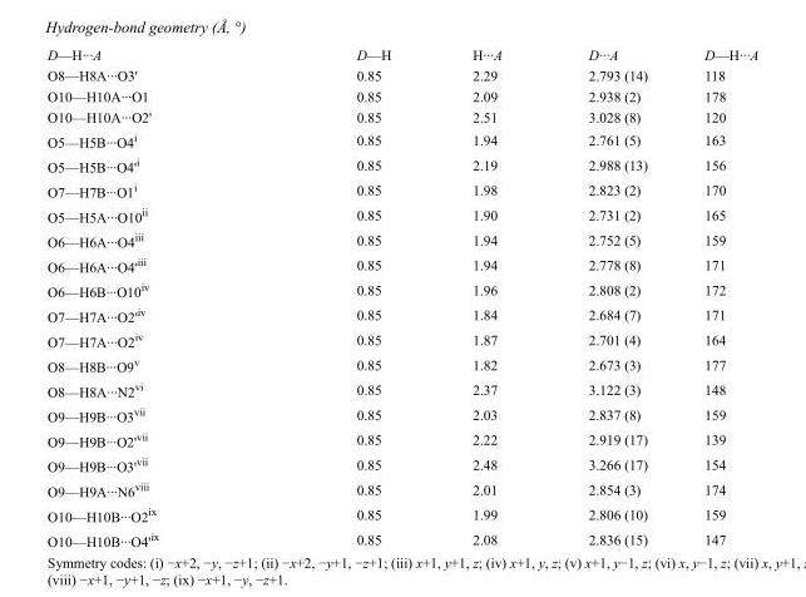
<table><tbody><tr><td>D—H···A</td><td>D—H</td><td>H···A</td><td>D···A</td><td>D—H···A</td></tr><tr><td>O8—H8A···O3&#x27;</td><td>0.85</td><td>2.29</td><td>2.793 (14)</td><td>118</td></tr><tr><td>O10—H10A···O1</td><td>0.85</td><td>2.09</td><td>2.938 (2)</td><td>178</td></tr><tr><td>O10—H10A···O2&#x27;</td><td>0.85</td><td>2.51</td><td>3.028 (8)</td><td>120</td></tr><tr><td>O5—H5B···O4<sup>i</sup></td><td>0.85</td><td>1.94</td><td>2.761 (5)</td><td>163</td></tr><tr><td>O5—H5B···O4&#x27;<sup>i</sup></td><td>0.85</td><td>2.19</td><td>2.988 (13)</td><td>156</td></tr><tr><td>O7—H7B···O1<sup>i</sup></td><td>0.85</td><td>1.98</td><td>2.823 (2)</td><td>170</td></tr><tr><td>O5—H5A···O10<sup>ii</sup></td><td>0.85</td><td>1.90</td><td>2.731 (2)</td><td>165</td></tr><tr><td>O6—H6A···O4<sup>iii</sup></td><td>0.85</td><td>1.94</td><td>2.752 (5)</td><td>159</td></tr><tr><td>O6—H6A···O4&#x27;<sup>iii</sup></td><td>0.85</td><td>1.94</td><td>2.778 (8)</td><td>171</td></tr><tr><td>O6—H6B···O10<sup>iv</sup></td><td>0.85</td><td>1.96</td><td>2.808 (2)</td><td>172</td></tr><tr><td>O7—H7A···O2&#x27;<sup>iv</sup></td><td>0.85</td><td>1.84</td><td>2.684 (7)</td><td>171</td></tr><tr><td>O7—H7A···O2<sup>iv</sup></td><td>0.85</td><td>1.87</td><td>2.701 (4)</td><td>164</td></tr><tr><td>O8—H8B···O9<sup>v</sup></td><td>0.85</td><td>1.82</td><td>2.673 (3)</td><td>177</td></tr><tr><td>O8—H8A···N2<sup>vi</sup></td><td>0.85</td><td>2.37</td><td>3.122 (3)</td><td>148</td></tr><tr><td>O9—H9B···O3<sup>vii</sup></td><td>0.85</td><td>2.03</td><td>2.837 (8)</td><td>159</td></tr><tr><td>O9—H9B···O2&#x27;<sup>vii</sup></td><td>0.85</td><td>2.22</td><td>2.919 (17)</td><td>139</td></tr><tr><td>O9—H9B···O3&#x27;<sup>vii</sup></td><td>0.85</td><td>2.48</td><td>3.266 (17)</td><td>154</td></tr><tr><td>O9—H9A···N6<sup>viii</sup></td><td>0.85</td><td>2.01</td><td>2.854 (3)</td><td>174</td></tr><tr><td>O10—H10B···O2<sup>ix</sup></td><td>0.85</td><td>1.99</td><td>2.806 (10)</td><td>159</td></tr><tr><td>O10—H10B···O4&#x27;<sup>ix</sup></td><td>0.85</td><td>2.08</td><td>2.836 (15)</td><td>147</td></tr></tbody></table>